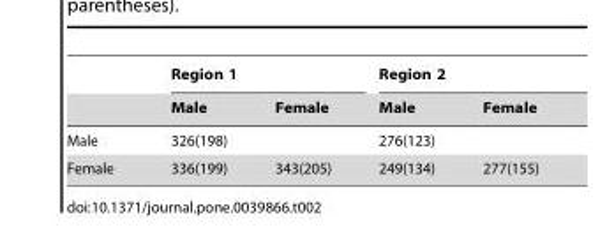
<table><thead><tr><td rowspan="2"></td><td colspan="2">Region 1</td><td colspan="2">Region 2</td></tr><tr><td>Male</td><td>Female</td><td>Male</td><td>Female</td></tr></thead><tbody><tr><td>Male</td><td>326(198)</td><td></td><td>276(123)</td><td></td></tr><tr><td>Female</td><td>336(199)</td><td>343(205)</td><td>249(134)</td><td>277(155)</td></tr></tbody></table>